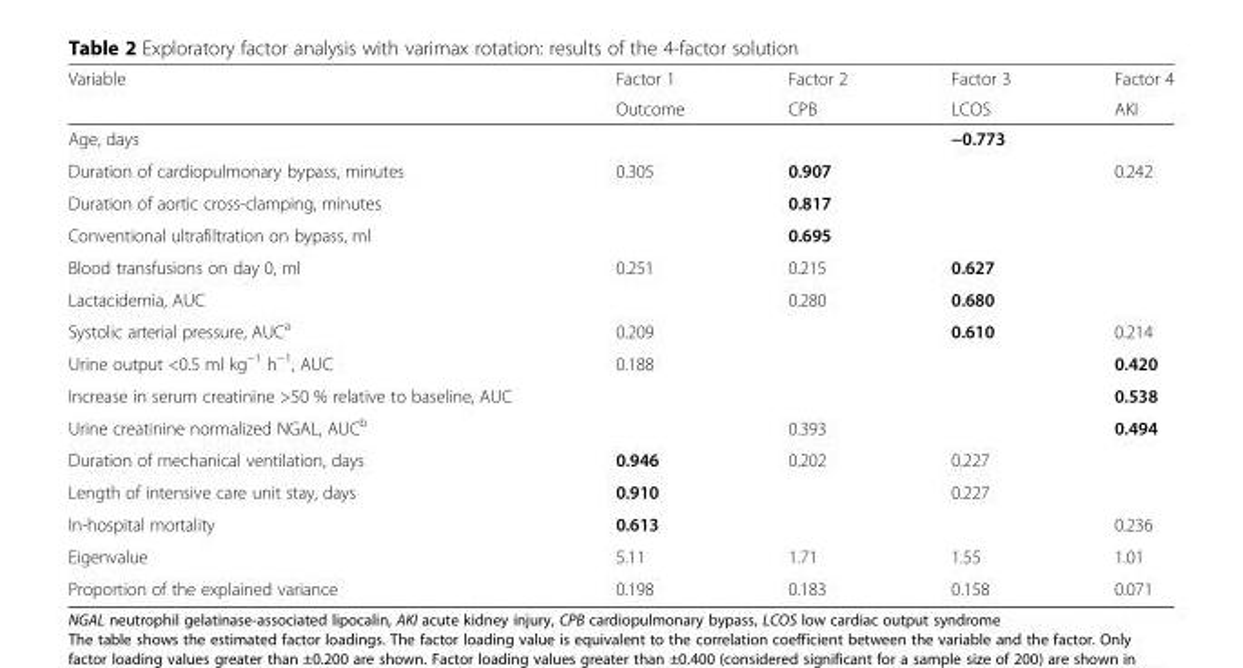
<table><thead><tr><td rowspan="2">Variable</td><td rowspan="2">Factor 1 Outcome</td><td rowspan="2">Factor 2 CPB</td><td rowspan="2">Factor 3 LCOS</td><td rowspan="2">Factor 4 AKI</td></tr><tr></tr></thead><tbody><tr><td>Age, days</td><td></td><td></td><td>−0.773</td><td></td></tr><tr><td>Duration of cardiopulmonary bypass, minutes</td><td>0.305</td><td>0.907</td><td></td><td>0.242</td></tr><tr><td>Duration of aortic cross-clamping, minutes</td><td></td><td>0.817</td><td></td><td></td></tr><tr><td>Conventional ultrafiltration on bypass, ml</td><td></td><td>0.695</td><td></td><td></td></tr><tr><td>Blood transfusions on day 0, ml</td><td>0.251</td><td>0.215</td><td>0.627</td><td></td></tr><tr><td>Lactacidemia, AUC</td><td></td><td>0.280</td><td>0.680</td><td></td></tr><tr><td>Systolic arterial pressure, AUC<sup>a</sup></td><td>0.209</td><td></td><td>0.610</td><td>0.214</td></tr><tr><td>Urine output &lt;0.5 ml kg<sup>−1</sup> h<sup>−1</sup>, AUC</td><td>0.188</td><td></td><td></td><td>0.420</td></tr><tr><td>Increase in serum creatinine &gt;50 % relative to baseline, AUC</td><td></td><td></td><td></td><td>0.538</td></tr><tr><td>Urine creatinine normalized NGAL, AUC<sup>b</sup></td><td></td><td>0.393</td><td></td><td>0.494</td></tr><tr><td>Duration of mechanical ventilation, days</td><td>0.946</td><td>0.202</td><td>0.227</td><td></td></tr><tr><td>Length of intensive care unit stay, days</td><td>0.910</td><td></td><td>0.227</td><td></td></tr><tr><td>In-hospital mortality</td><td>0.613</td><td></td><td></td><td>0.236</td></tr><tr><td>Eigenvalue</td><td>5.11</td><td>1.71</td><td>1.55</td><td>1.01</td></tr><tr><td>Proportion of the explained variance</td><td>0.198</td><td>0.183</td><td>0.158</td><td>0.071</td></tr></tbody></table>